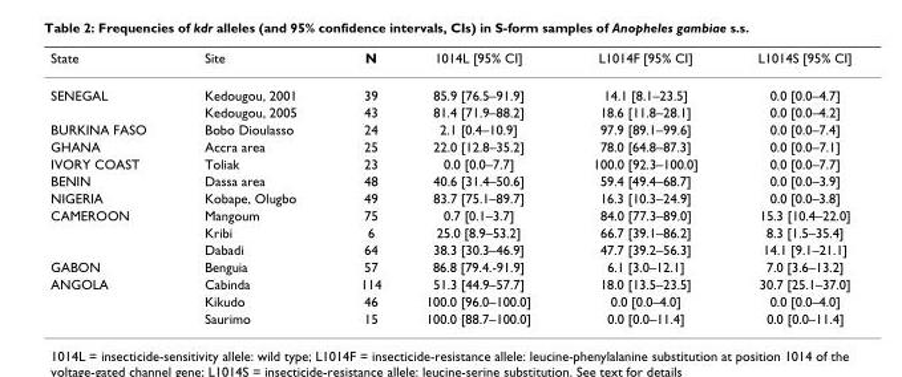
<table><thead><tr><td>State</td><td>Site</td><td>N</td><td>1014L [95% CI]</td><td>L1014F [95% CI]</td><td>L1014S [95% CI]</td></tr></thead><tbody><tr><td rowspan="2">SENEGAL</td><td>Kedougou, 2001</td><td>39</td><td>85.9 [76.5–91.9]</td><td>14.1 [8.1–23.5]</td><td>0.0 [0.0–4.7]</td></tr><tr><td>Kedougou, 2005</td><td>43</td><td>81.4 [71.9–88.2]</td><td>18.6 [11.8–28.1]</td><td>0.0 [0.0–4.2]</td></tr><tr><td>BURKINA FASO</td><td>Bobo Dioulasso</td><td>24</td><td>2.1 [0.4–10.9]</td><td>97.9 [89.1–99.6]</td><td>0.0 [0.0–7.4]</td></tr><tr><td>GHANA</td><td>Accra area</td><td>25</td><td>22.0 [12.8–35.2]</td><td>78.0 [64.8–87.3]</td><td>0.0 [0.0–7.1]</td></tr><tr><td>IVORY COAST</td><td>Toliak</td><td>23</td><td>0.0 [0.0–7.7]</td><td>100.0 [92.3–100.0]</td><td>0.0 [0.0–7.7]</td></tr><tr><td>BENIN</td><td>Dassa area</td><td>48</td><td>40.6 [31.4–50.6]</td><td>59.4 [49.4–68.7]</td><td>0.0 [0.0–3.9]</td></tr><tr><td>NIGERIA</td><td>Kobape, Olugbo</td><td>49</td><td>83.7 [75.1–89.7]</td><td>16.3 [10.3–24.9]</td><td>0.0 [0.0–3.8]</td></tr><tr><td rowspan="3">CAMEROON</td><td>Mangoum</td><td>75</td><td>0.7 [0.1–3.7]</td><td>84.0 [77.3–89.0]</td><td>15.3 [10.4–22.0]</td></tr><tr><td>Kribi</td><td>6</td><td>25.0 [8.9–53.2]</td><td>66.7 [39.1–86.2]</td><td>8.3 [1.5–35.4]</td></tr><tr><td>Dabadi</td><td>64</td><td>38.3 [30.3–46.9]</td><td>47.7 [39.2–56.3]</td><td>14.1 [9.1–21.1]</td></tr><tr><td>GABON</td><td>Benguia</td><td>57</td><td>86.8 [79.4.-91.9]</td><td>6.1 [3.0–12.1]</td><td>7.0 [3.6–13.2]</td></tr><tr><td rowspan="3">ANGOLA</td><td>Cabinda</td><td>114</td><td>51.3 [44.9–57.7]</td><td>18.0 [13.5–23.5]</td><td>30.7 [25.1–37.0]</td></tr><tr><td>Kikudo</td><td>46</td><td>100.0 [96.0–100.0]</td><td>0.0 [0.0–4.0]</td><td>0.0 [0.0–4.0]</td></tr><tr><td>Saurimo</td><td>15</td><td>100.0 [88.7–100.0]</td><td>0.0 [0.0–11.4]</td><td>0.0 [0.0–11.4]</td></tr></tbody></table>